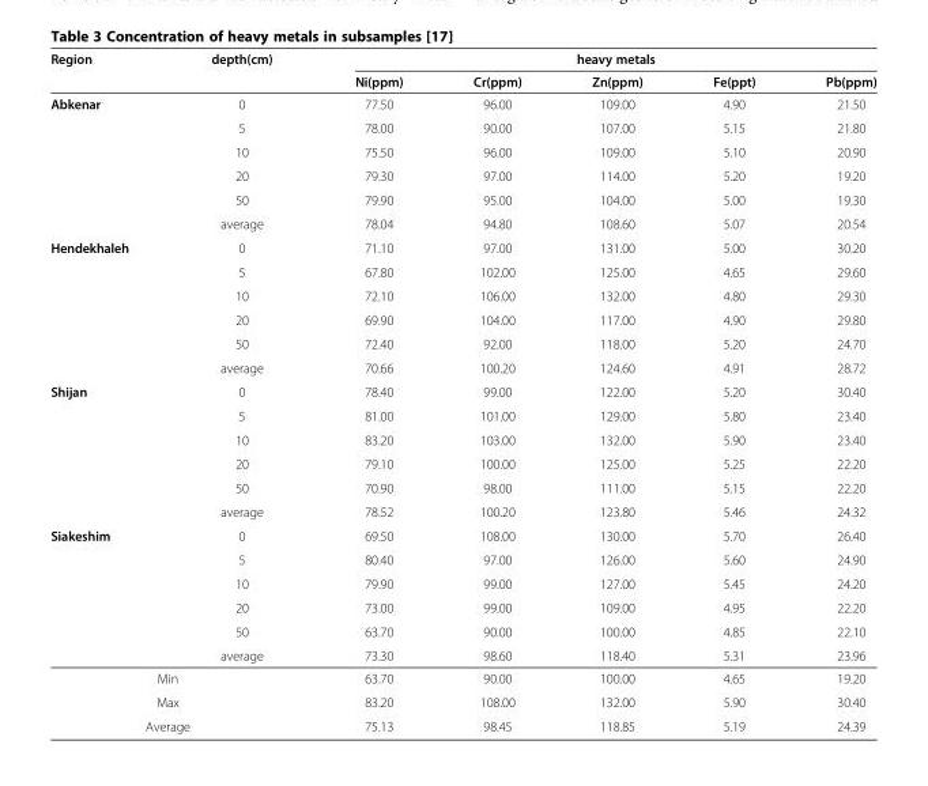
<table><thead><tr><td rowspan="2">Region</td><td rowspan="2">depth(cm)</td><td colspan="5">heavy metals</td></tr><tr><td>Ni(ppm)</td><td>Cr(ppm)</td><td>Zn(ppm)</td><td>Fe(ppt)</td><td>Pb(ppm)</td></tr></thead><tbody><tr><td rowspan="6">Abkenar</td><td>0</td><td>77.50</td><td>96.00</td><td>109.00</td><td>4.90</td><td>21.50</td></tr><tr><td>5</td><td>78.00</td><td>90.00</td><td>107.00</td><td>5.15</td><td>21.80</td></tr><tr><td>10</td><td>75.50</td><td>96.00</td><td>109.00</td><td>5.10</td><td>20.90</td></tr><tr><td>20</td><td>79.30</td><td>97.00</td><td>114.00</td><td>5.20</td><td>19.20</td></tr><tr><td>50</td><td>79.90</td><td>95.00</td><td>104.00</td><td>5.00</td><td>19.30</td></tr><tr><td>average</td><td>78.04</td><td>94.80</td><td>108.60</td><td>5.07</td><td>20.54</td></tr><tr><td rowspan="6">Hendekhaleh</td><td>0</td><td>71.10</td><td>97.00</td><td>131.00</td><td>5.00</td><td>30.20</td></tr><tr><td>5</td><td>67.80</td><td>102.00</td><td>125.00</td><td>4.65</td><td>29.60</td></tr><tr><td>10</td><td>72.10</td><td>106.00</td><td>132.00</td><td>4.80</td><td>29.30</td></tr><tr><td>20</td><td>69.90</td><td>104.00</td><td>117.00</td><td>4.90</td><td>29.80</td></tr><tr><td>50</td><td>72.40</td><td>92.00</td><td>118.00</td><td>5.20</td><td>24.70</td></tr><tr><td>average</td><td>70.66</td><td>100.20</td><td>124.60</td><td>4.91</td><td>28.72</td></tr><tr><td rowspan="6">Shijan</td><td>0</td><td>78.40</td><td>99.00</td><td>122.00</td><td>5.20</td><td>30.40</td></tr><tr><td>5</td><td>81.00</td><td>101.00</td><td>129.00</td><td>5.80</td><td>23.40</td></tr><tr><td>10</td><td>83.20</td><td>103.00</td><td>132.00</td><td>5.90</td><td>23.40</td></tr><tr><td>20</td><td>79.10</td><td>100.00</td><td>125.00</td><td>5.25</td><td>22.20</td></tr><tr><td>50</td><td>70.90</td><td>98.00</td><td>111.00</td><td>5.15</td><td>22.20</td></tr><tr><td>average</td><td>78.52</td><td>100.20</td><td>123.80</td><td>5.46</td><td>24.32</td></tr><tr><td rowspan="6">Siakeshim</td><td>0</td><td>69.50</td><td>108.00</td><td>130.00</td><td>5.70</td><td>26.40</td></tr><tr><td>5</td><td>80.40</td><td>97.00</td><td>126.00</td><td>5.60</td><td>24.90</td></tr><tr><td>10</td><td>79.90</td><td>99.00</td><td>127.00</td><td>5.45</td><td>24.20</td></tr><tr><td>20</td><td>73.00</td><td>99.00</td><td>109.00</td><td>4.95</td><td>22.20</td></tr><tr><td>50</td><td>63.70</td><td>90.00</td><td>100.00</td><td>4.85</td><td>22.10</td></tr><tr><td>average</td><td>73.30</td><td>98.60</td><td>118.40</td><td>5.31</td><td>23.96</td></tr><tr><td colspan="2">Min</td><td>63.70</td><td>90.00</td><td>100.00</td><td>4.65</td><td>19.20</td></tr><tr><td colspan="2">Max</td><td>83.20</td><td>108.00</td><td>132.00</td><td>5.90</td><td>30.40</td></tr><tr><td colspan="2">Average</td><td>75.13</td><td>98.45</td><td>118.85</td><td>5.19</td><td>24.39</td></tr></tbody></table>